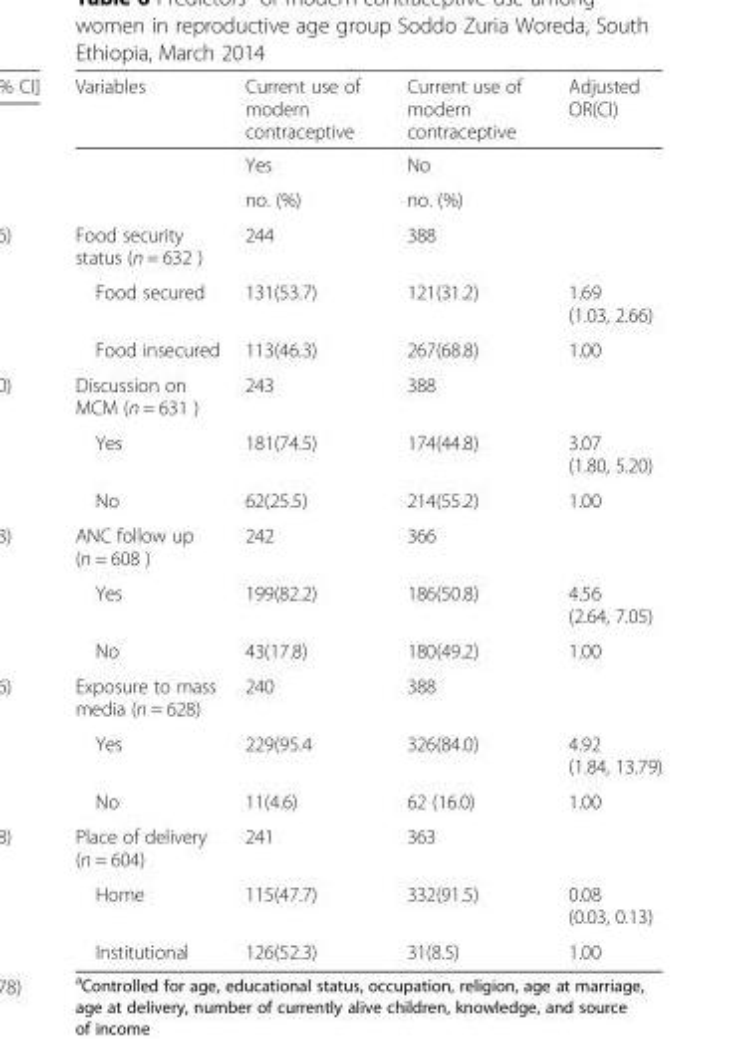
<table><thead><tr><td>Variables</td><td>Current use of modern contraceptive</td><td>Current use of modern contraceptive</td><td>Adjusted OR(CI)</td></tr></thead><tbody><tr><td></td><td>Yes</td><td>No</td><td></td></tr><tr><td></td><td>no. (%)</td><td>no. (%)</td><td></td></tr><tr><td>Food security status (n = 632 )</td><td>244</td><td>388</td><td></td></tr><tr><td>Food secured</td><td>131(53.7)</td><td>121(31.2)</td><td>1.69 (1.03, 2.66)</td></tr><tr><td>Food insecured</td><td>113(46.3)</td><td>267(68.8)</td><td>1.00</td></tr><tr><td>Discussion on MCM (n = 631 )</td><td>243</td><td>388</td><td></td></tr><tr><td>Yes</td><td>181(74.5)</td><td>174(44.8)</td><td>3.07 (1.80, 5.20)</td></tr><tr><td>No</td><td>62(25.5)</td><td>214(55.2)</td><td>1.00</td></tr><tr><td>ANC follow up (n = 608 )</td><td>242</td><td>366</td><td></td></tr><tr><td>Yes</td><td>199(82.2)</td><td>186(50.8)</td><td>4.56 (2.64, 7.05)</td></tr><tr><td>No</td><td>43(17.8)</td><td>180(49.2)</td><td>1.00</td></tr><tr><td>Exposure to mass media (n = 628)</td><td>240</td><td>388</td><td></td></tr><tr><td>Yes</td><td>229(95.4</td><td>326(84.0)</td><td>4.92 (1.84, 13.79)</td></tr><tr><td>No</td><td>11(4.6)</td><td>62 (16.0)</td><td>1.00</td></tr><tr><td>Place of delivery (n = 604)</td><td>241</td><td>363</td><td></td></tr><tr><td>Home</td><td>115(47.7)</td><td>332(91.5)</td><td>0.08 (0.03, 0.13)</td></tr><tr><td>Institutional</td><td>126(52.3)</td><td>31(8.5)</td><td>1.00</td></tr></tbody></table>